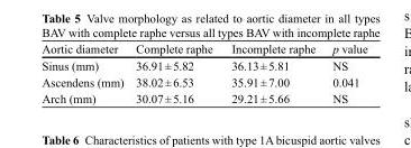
<table><thead><tr><td>Aortic diameter</td><td>Complete raphe</td><td>Incomplete raphe</td><td>p value</td></tr></thead><tbody><tr><td>Sinus (mm)</td><td>36.91 ± 5.82</td><td>36.13 ± 5.81</td><td>NS</td></tr><tr><td>Ascendens (mm)</td><td>38.02 ± 6.53</td><td>35.91 ± 7.00</td><td>0.041</td></tr><tr><td>Arch (mm)</td><td>30.07 ± 5.16</td><td>29.21 ± 5.66</td><td>NS</td></tr></tbody></table>